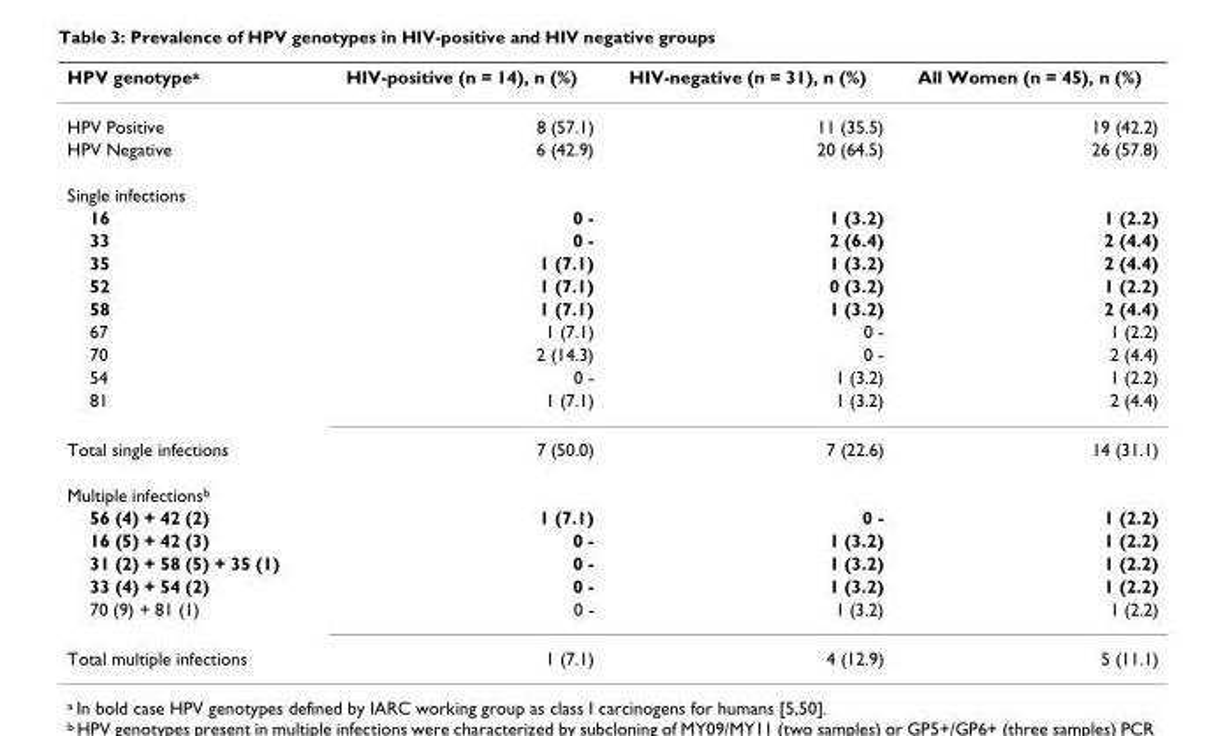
<table><thead><tr><td>HPV genotype<sup>a</sup></td><td>HIV-positive (n = 14), n (%)</td><td>HIV-negative (n = 31), n (%)</td><td>All Women (n = 45), n (%)</td></tr></thead><tbody><tr><td>HPV Positive</td><td>8 (57.1)</td><td>11 (35.5)</td><td>19 (42.2)</td></tr><tr><td>HPV Negative</td><td>6 (42.9)</td><td>20 (64.5)</td><td>26 (57.8)</td></tr><tr><td colspan="4">Single infections</td></tr><tr><td>16</td><td>0 -</td><td>1 (3.2)</td><td>1 (2.2)</td></tr><tr><td>33</td><td>0 -</td><td>2 (6.4)</td><td>2 (4.4)</td></tr><tr><td>35</td><td>1 (7.1)</td><td>1 (3.2)</td><td>2 (4.4)</td></tr><tr><td>52</td><td>1 (7.1)</td><td>0 (3.2)</td><td>1 (2.2)</td></tr><tr><td>58</td><td>1 (7.1)</td><td>1 (3.2)</td><td>2 (4.4)</td></tr><tr><td>67</td><td>1 (7.1)</td><td>0 -</td><td>1 (2.2)</td></tr><tr><td>70</td><td>2 (14.3)</td><td>0 -</td><td>2 (4.4)</td></tr><tr><td>54</td><td>0 -</td><td>1 (3.2)</td><td>1 (2.2)</td></tr><tr><td>81</td><td>1 (7.1)</td><td>1 (3.2)</td><td>2 (4.4)</td></tr><tr><td>Total single infections</td><td>7 (50.0)</td><td>7 (22.6)</td><td>14 (31.1)</td></tr><tr><td colspan="4">Multiple infections<sup>b</sup></td></tr><tr><td>56 (4) + 42 (2)</td><td>1 (7.1)</td><td>0 -</td><td>1 (2.2)</td></tr><tr><td>16 (5) + 42 (3)</td><td>0 -</td><td>1 (3.2)</td><td>1 (2.2)</td></tr><tr><td>31 (2) + 58 (5) + 35 (1)</td><td>0 -</td><td>1 (3.2)</td><td>1 (2.2)</td></tr><tr><td>33 (4) + 54 (2)</td><td>0 -</td><td>1 (3.2)</td><td>1 (2.2)</td></tr><tr><td>70 (9) + 81 (1)</td><td>0 -</td><td>1 (3.2)</td><td>1 (2.2)</td></tr><tr><td>Total multiple infections</td><td>1 (7.1)</td><td>4 (12.9)</td><td>5 (11.1)</td></tr></tbody></table>